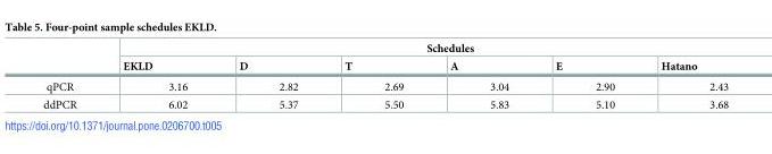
<table><thead><tr><td rowspan="2"></td><td colspan="6">Schedules</td></tr><tr><td>EKLD</td><td>D</td><td>T</td><td>A</td><td>E</td><td>Hatano</td></tr></thead><tbody><tr><td>qPCR</td><td>3.16</td><td>2.82</td><td>2.69</td><td>3.04</td><td>2.90</td><td>2.43</td></tr><tr><td>ddPCR</td><td>6.02</td><td>5.37</td><td>5.50</td><td>5.83</td><td>5.10</td><td>3.68</td></tr></tbody></table>